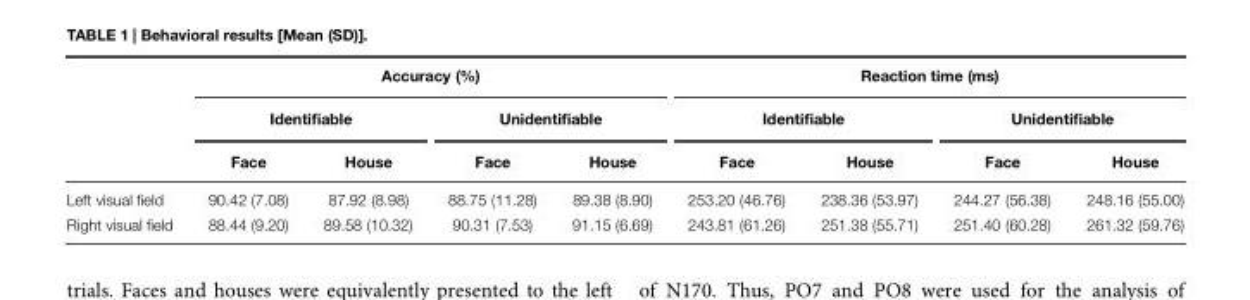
<table><thead><tr><td rowspan="3"></td><td colspan="4">Accuracy (%)</td><td colspan="4">Reaction time (ms)</td></tr><tr><td colspan="2">Identifiable</td><td colspan="2">Unidentifiable</td><td colspan="2">Identifiable</td><td colspan="2">Unidentifiable</td></tr><tr><td>Face</td><td>House</td><td>Face</td><td>House</td><td>Face</td><td>House</td><td>Face</td><td>House</td></tr></thead><tbody><tr><td>Left visual field</td><td>90.42 (7.08)</td><td>87.92 (8.98)</td><td>88.75 (11.28)</td><td>89.38 (8.90)</td><td>253.20 (46.76)</td><td>238.36 (53.97)</td><td>244.27 (56.38)</td><td>248.16 (55.00)</td></tr><tr><td>Right visual field</td><td>88.44 (9.20)</td><td>89.58 (10.32)</td><td>90.31 (7.53)</td><td>91.15 (6.69)</td><td>243.81 (61.26)</td><td>251.38 (55.71)</td><td>251.40 (60.28)</td><td>261.32 (59.76)</td></tr></tbody></table>